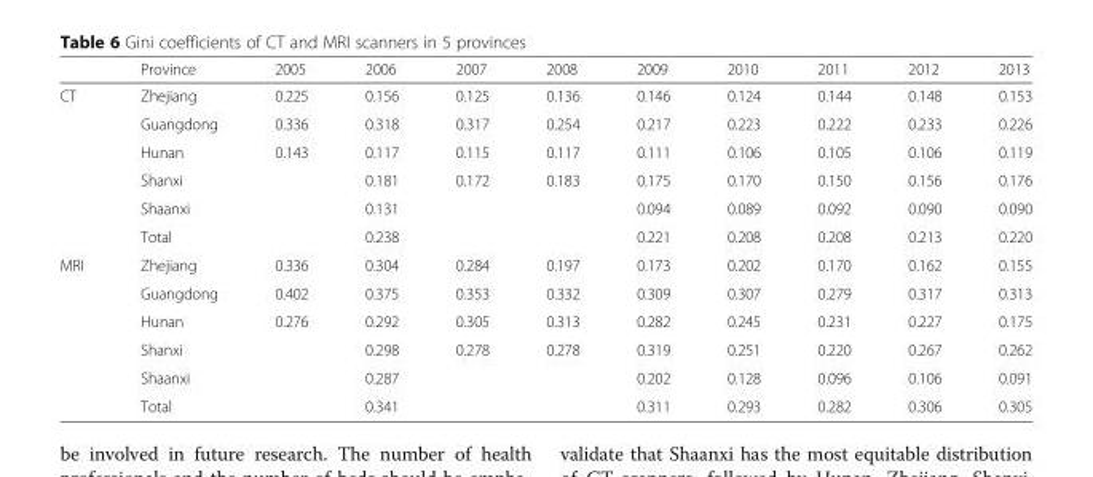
<table><thead><tr><td></td><td>Province</td><td>2005</td><td>2006</td><td>2007</td><td>2008</td><td>2009</td><td>2010</td><td>2011</td><td>2012</td><td>2013</td></tr></thead><tbody><tr><td rowspan="6">CT</td><td>Zhejiang</td><td>0.225</td><td>0.156</td><td>0.125</td><td>0.136</td><td>0.146</td><td>0.124</td><td>0.144</td><td>0.148</td><td>0.153</td></tr><tr><td>Guangdong</td><td>0.336</td><td>0.318</td><td>0.317</td><td>0.254</td><td>0.217</td><td>0.223</td><td>0.222</td><td>0.233</td><td>0.226</td></tr><tr><td>Hunan</td><td>0.143</td><td>0.117</td><td>0.115</td><td>0.117</td><td>0.111</td><td>0.106</td><td>0.105</td><td>0.106</td><td>0.119</td></tr><tr><td>Shanxi</td><td></td><td>0.181</td><td>0.172</td><td>0.183</td><td>0.175</td><td>0.170</td><td>0.150</td><td>0.156</td><td>0.176</td></tr><tr><td>Shaanxi</td><td></td><td>0.131</td><td></td><td></td><td>0.094</td><td>0.089</td><td>0.092</td><td>0.090</td><td>0.090</td></tr><tr><td>Total</td><td></td><td>0.238</td><td></td><td></td><td>0.221</td><td>0.208</td><td>0.208</td><td>0.213</td><td>0.220</td></tr><tr><td rowspan="6">MRI</td><td>Zhejiang</td><td>0.336</td><td>0.304</td><td>0.284</td><td>0.197</td><td>0.173</td><td>0.202</td><td>0.170</td><td>0.162</td><td>0.155</td></tr><tr><td>Guangdong</td><td>0.402</td><td>0.375</td><td>0.353</td><td>0.332</td><td>0.309</td><td>0.307</td><td>0.279</td><td>0.317</td><td>0.313</td></tr><tr><td>Hunan</td><td>0.276</td><td>0.292</td><td>0.305</td><td>0.313</td><td>0.282</td><td>0.245</td><td>0.231</td><td>0.227</td><td>0.175</td></tr><tr><td>Shanxi</td><td></td><td>0.298</td><td>0.278</td><td>0.278</td><td>0.319</td><td>0.251</td><td>0.220</td><td>0.267</td><td>0.262</td></tr><tr><td>Shaanxi</td><td></td><td>0.287</td><td></td><td></td><td>0.202</td><td>0.128</td><td>0.096</td><td>0.106</td><td>0.091</td></tr><tr><td>Total</td><td></td><td>0.341</td><td></td><td></td><td>0.311</td><td>0.293</td><td>0.282</td><td>0.306</td><td>0.305</td></tr></tbody></table>